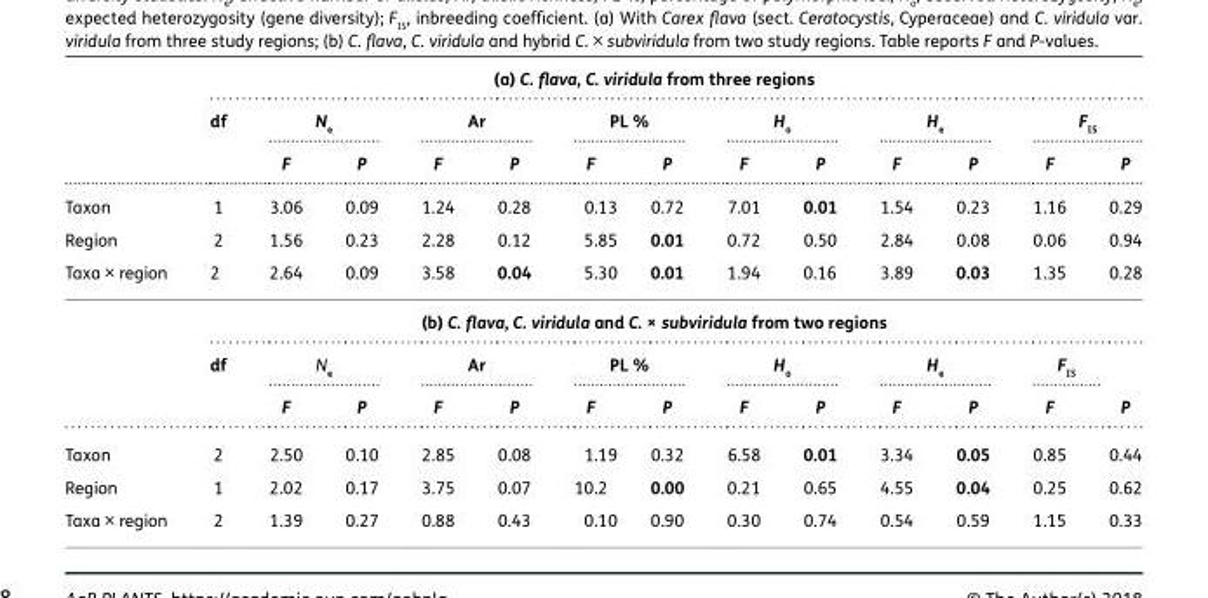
<table><thead><tr><td colspan="14">(a) C. flava, C. viridula from three regions</td></tr><tr><td rowspan="2"></td><td rowspan="2">df</td><td colspan="2">N<sub>e</sub></td><td colspan="2">Ar</td><td colspan="2">PL %</td><td colspan="2">H<sub>o</sub></td><td colspan="2">H<sub>e</sub></td><td colspan="2">F<sub>IS</sub></td></tr><tr><td>F</td><td>P</td><td>F</td><td>P</td><td>F</td><td>P</td><td>F</td><td>P</td><td>F</td><td>P</td><td>F</td><td>P</td></tr></thead><tbody><tr><td>Taxon</td><td>1</td><td>3.06</td><td>0.09</td><td>1.24</td><td>0.28</td><td>0.13</td><td>0.72</td><td>7.01</td><td>0.01</td><td>1.54</td><td>0.23</td><td>1.16</td><td>0.29</td></tr><tr><td>Region</td><td>2</td><td>1.56</td><td>0.23</td><td>2.28</td><td>0.12</td><td>5.85</td><td>0.01</td><td>0.72</td><td>0.50</td><td>2.84</td><td>0.08</td><td>0.06</td><td>0.94</td></tr><tr><td>Taxa × region</td><td>2</td><td>2.64</td><td>0.09</td><td>3.58</td><td>0.04</td><td>5.30</td><td>0.01</td><td>1.94</td><td>0.16</td><td>3.89</td><td>0.03</td><td>1.35</td><td>0.28</td></tr><tr><td colspan="14">(b) C. flava, C. viridula and C. × subviridula from two regions</td></tr><tr><td rowspan="2"></td><td>df</td><td colspan="2">N<sub>e</sub></td><td colspan="2">Ar</td><td colspan="2">PL %</td><td colspan="2">H<sub>o</sub></td><td colspan="2">H<sub>e</sub></td><td colspan="2">F<sub>IS</sub></td></tr><tr><td></td><td>F</td><td>P</td><td>F</td><td>P</td><td>F</td><td>P</td><td>F</td><td>P</td><td>F</td><td>P</td><td>F</td><td>P</td></tr><tr><td>Taxon</td><td>2</td><td>2.50</td><td>0.10</td><td>2.85</td><td>0.08</td><td>1.19</td><td>0.32</td><td>6.58</td><td>0.01</td><td>3.34</td><td>0.05</td><td>0.85</td><td>0.44</td></tr><tr><td>Region</td><td>1</td><td>2.02</td><td>0.17</td><td>3.75</td><td>0.07</td><td>10.2</td><td>0.00</td><td>0.21</td><td>0.65</td><td>4.55</td><td>0.04</td><td>0.25</td><td>0.62</td></tr><tr><td>Taxa × region</td><td>2</td><td>1.39</td><td>0.27</td><td>0.88</td><td>0.43</td><td>0.10</td><td>0.90</td><td>0.30</td><td>0.74</td><td>0.54</td><td>0.59</td><td>1.15</td><td>0.33</td></tr></tbody></table>